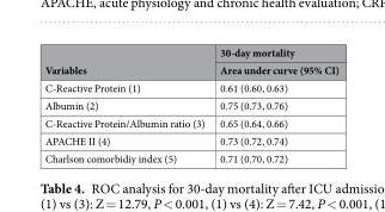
<table><thead><tr><td rowspan="2">Variables</td><td rowspan="2">30-day mortality Area under curve (95% CI)</td></tr><tr></tr></thead><tbody><tr><td>C-Reactive Protein (1)</td><td>0.61 (0.60, 0.63)</td></tr><tr><td>Albumin (2)</td><td>0.75 (0.73, 0.76)</td></tr><tr><td>C-Reactive Protein/Albumin ratio (3)</td><td>0.65 (0.64, 0.66)</td></tr><tr><td>APACHE II (4)</td><td>0.73 (0.72, 0.74)</td></tr><tr><td>Charlson comorbidiy index (5)</td><td>0.71 (0.70, 0.72)</td></tr></tbody></table>